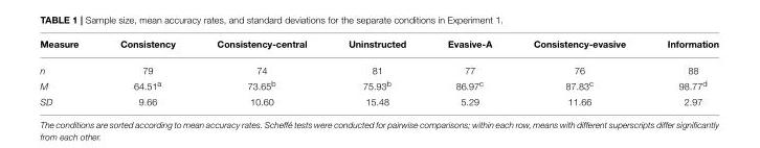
<table><thead><tr><td>Measure</td><td>Consistency</td><td>Consistency-central</td><td>Uninstructed</td><td>Evasive-A</td><td>Consistency-evasive</td><td>Information</td></tr></thead><tbody><tr><td>n</td><td>79</td><td>74</td><td>81</td><td>77</td><td>76</td><td>88</td></tr><tr><td>M</td><td>64.51<sup>a</sup></td><td>73.65<sup>b</sup></td><td>75.93<sup>b</sup></td><td>86.97<sup>c</sup></td><td>87.83<sup>c</sup></td><td>98.77<sup>d</sup></td></tr><tr><td>SD</td><td>9.66</td><td>10.60</td><td>15.48</td><td>5.29</td><td>11.66</td><td>2.97</td></tr></tbody></table>